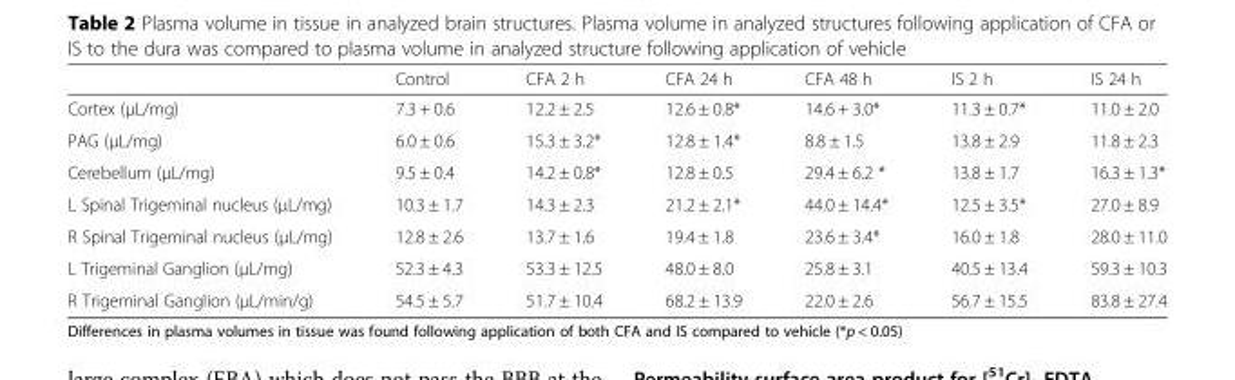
<table><thead><tr><td></td><td>Control</td><td>CFA 2 h</td><td>CFA 24 h</td><td>CFA 48 h</td><td>IS 2 h</td><td>IS 24 h</td></tr></thead><tbody><tr><td>Cortex (μL/mg)</td><td>7.3 + 0.6</td><td>12.2 ± 2.5</td><td>12.6 ± 0.8*</td><td>14.6 + 3.0*</td><td>11.3 ± 0.7*</td><td>11.0 ± 2.0</td></tr><tr><td>PAG (μL/mg)</td><td>6.0 ± 0.6</td><td>15.3 ± 3.2*</td><td>12.8 ± 1.4*</td><td>8.8 ± 1.5</td><td>13.8 ± 2.9</td><td>11.8 ± 2.3</td></tr><tr><td>Cerebellum (μL/mg)</td><td>9.5 ± 0.4</td><td>14.2 ± 0.8*</td><td>12.8 ± 0.5</td><td>29.4 ± 6.2 *</td><td>13.8 ± 1.7</td><td>16.3 ± 1.3*</td></tr><tr><td>L Spinal Trigeminal nucleus (μL/mg)</td><td>10.3 ± 1.7</td><td>14.3 ± 2.3</td><td>21.2 ± 2.1*</td><td>44.0 ± 14.4*</td><td>12.5 ± 3.5*</td><td>27.0 ± 8.9</td></tr><tr><td>R Spinal Trigeminal nucleus (μL/mg)</td><td>12.8 ± 2.6</td><td>13.7 ± 1.6</td><td>19.4 ± 1.8</td><td>23.6 ± 3.4*</td><td>16.0 ± 1.8</td><td>28.0 ± 11.0</td></tr><tr><td>L Trigeminal Ganglion (μL/mg)</td><td>52.3 ± 4.3</td><td>53.3 ± 12.5</td><td>48.0 ± 8.0</td><td>25.8 ± 3.1</td><td>40.5 ± 13.4</td><td>59.3 ± 10.3</td></tr><tr><td>R Trigeminal Ganglion (μL/min/g)</td><td>54.5 ± 5.7</td><td>51.7 ± 10.4</td><td>68.2 ± 13.9</td><td>22.0 ± 2.6</td><td>56.7 ± 15.5</td><td>83.8 ± 27.4</td></tr></tbody></table>